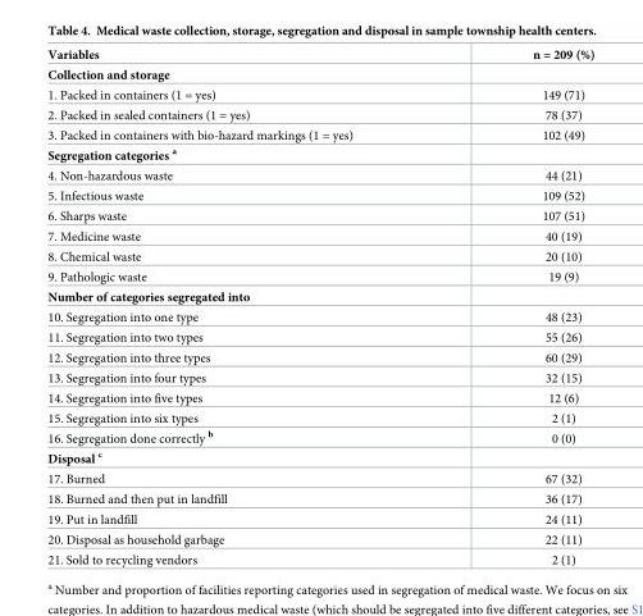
<table><thead><tr><td>Variables</td><td>n = 209 (%)</td></tr></thead><tbody><tr><td colspan="2">Collection and storage</td></tr><tr><td>1. Packed in containers (1 = yes)</td><td>149 (71)</td></tr><tr><td>2. Packed in sealed containers (1 = yes)</td><td>78 (37)</td></tr><tr><td>3. Packed in containers with bio-hazard markings (1 = yes)</td><td>102 (49)</td></tr><tr><td colspan="2">Segregation categories <sup>a</sup></td></tr><tr><td>4. Non-hazardous waste</td><td>44 (21)</td></tr><tr><td>5. Infectious waste</td><td>109 (52)</td></tr><tr><td>6. Sharps waste</td><td>107 (51)</td></tr><tr><td>7. Medicine waste</td><td>40 (19)</td></tr><tr><td>8. Chemical waste</td><td>20 (10)</td></tr><tr><td>9. Pathologic waste</td><td>19 (9)</td></tr><tr><td colspan="2">Number of categories segregated into</td></tr><tr><td>10. Segregation into one type</td><td>48 (23)</td></tr><tr><td>11. Segregation into two types</td><td>55 (26)</td></tr><tr><td>12. Segregation into three types</td><td>60 (29)</td></tr><tr><td>13. Segregation into four types</td><td>32 (15)</td></tr><tr><td>14. Segregation into five types</td><td>12 (6)</td></tr><tr><td>15. Segregation into six types</td><td>2 (1)</td></tr><tr><td>16. Segregation done correctly <sup>b</sup></td><td>0 (0)</td></tr><tr><td colspan="2">Disposal <sup>c</sup></td></tr><tr><td>17. Burned</td><td>67 (32)</td></tr><tr><td>18. Burned and then put in landfill</td><td>36 (17)</td></tr><tr><td>19. Put in landfill</td><td>24 (11)</td></tr><tr><td>20. Disposal as household garbage</td><td>22 (11)</td></tr><tr><td>21. Sold to recycling vendors</td><td>2 (1)</td></tr></tbody></table>